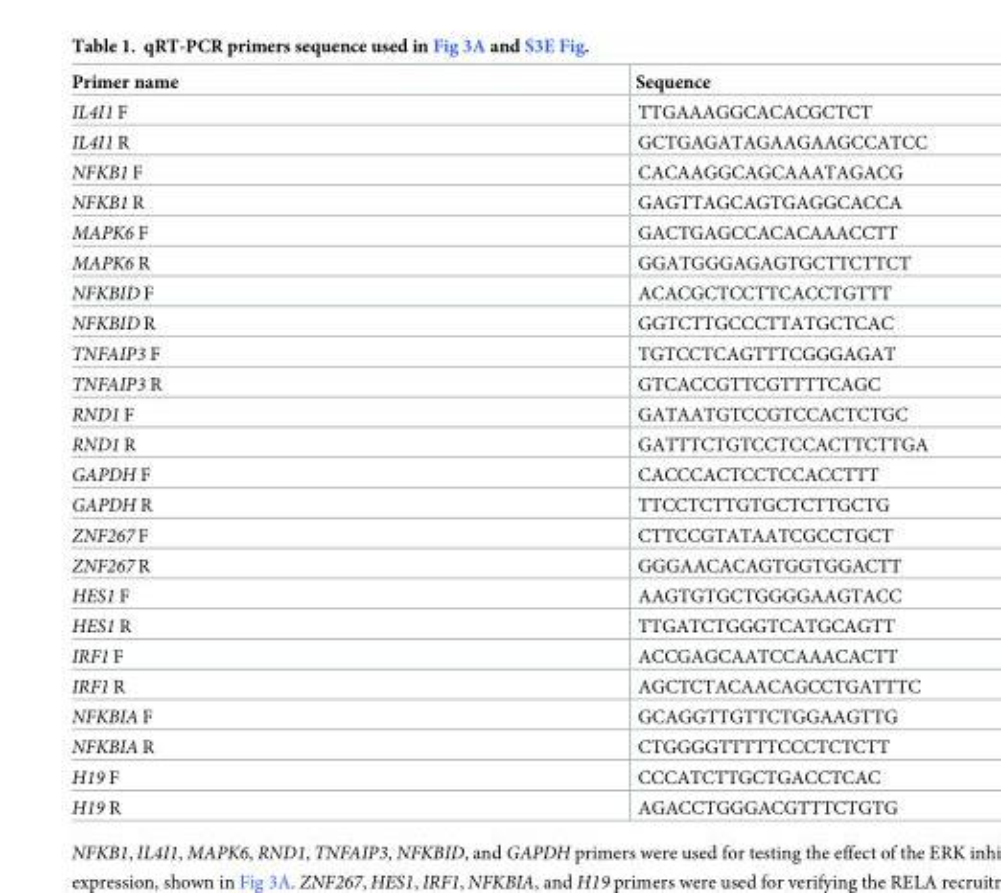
<table><thead><tr><td>Primer name</td><td>Sequence</td></tr></thead><tbody><tr><td>IL4I1 F</td><td>TTGAAAGGCACACGCTCT</td></tr><tr><td>IL4I1 R</td><td>GCTGAGATAGAAGAAGCCATCC</td></tr><tr><td>NFKB1 F</td><td>CACAAGGCAGCAAATAGACG</td></tr><tr><td>NFKB1 R</td><td>GAGTTAGCAGTGAGGCACCA</td></tr><tr><td>MAPK6 F</td><td>GACTGAGCCACACAAACCTT</td></tr><tr><td>MAPK6 R</td><td>GGATGGGAGAGTGCTTCTTCT</td></tr><tr><td>NFKBID F</td><td>ACACGCTCCTTCACCTGTTT</td></tr><tr><td>NFKBID R</td><td>GGTCTTGCCCTTATGCTCAC</td></tr><tr><td>TNFAIP3 F</td><td>TGTCCTCAGTTTCGGGAGAT</td></tr><tr><td>TNFAIP3 R</td><td>GTCACCGTTCGTTTTCAGC</td></tr><tr><td>RND1 F</td><td>GATAATGTCCGTCCACTCTGC</td></tr><tr><td>RND1 R</td><td>GATTTCTGTCCTCCACTTCTTGA</td></tr><tr><td>GAPDH F</td><td>CACCCACTCCTCCACCTTT</td></tr><tr><td>GAPDH R</td><td>TTCCTCTTGTGCTCTTGCTG</td></tr><tr><td>ZNF267 F</td><td>CTTCCGTATAATCGCCTGCT</td></tr><tr><td>ZNF267 R</td><td>GGGAACACAGTGGTGGACTT</td></tr><tr><td>HES1 F</td><td>AAGTGTGCTGGGGAAGTACC</td></tr><tr><td>HES1 R</td><td>TTGATCTGGGTCATGCAGTT</td></tr><tr><td>IRF1 F</td><td>ACCGAGCAATCCAAACACTT</td></tr><tr><td>IRF1 R</td><td>AGCTCTACAACAGCCTGATTTC</td></tr><tr><td>NFKBIA F</td><td>GCAGGTTGTTCTGGAAGTTG</td></tr><tr><td>NFKBIA R</td><td>CTGGGGTTTTTCCCTCTCTT</td></tr><tr><td>H19 F</td><td>CCCATCTTGCTGACCTCAC</td></tr><tr><td>H19 R</td><td>AGACCTGGGACGTTTCTGTG</td></tr></tbody></table>